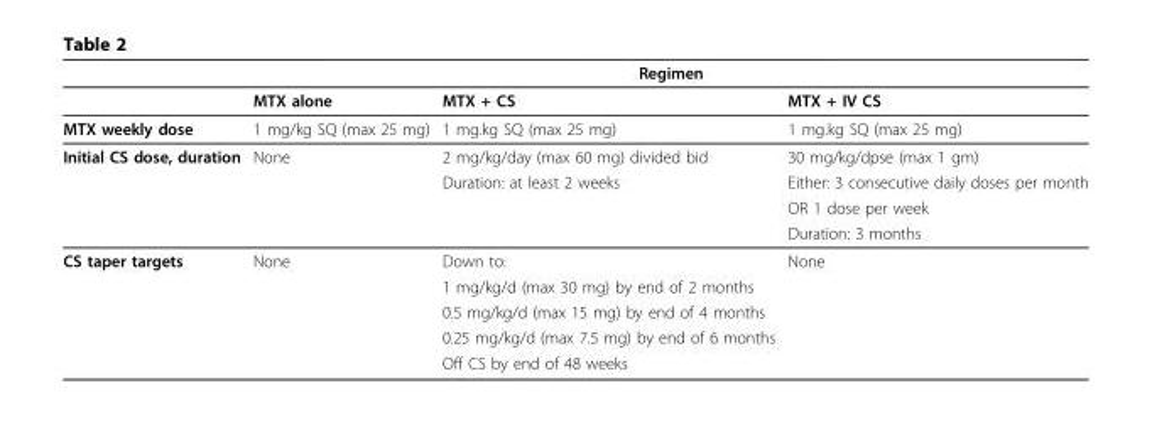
<table><thead><tr><td rowspan="2"></td><td colspan="3">Regimen</td></tr><tr><td>MTX alone</td><td>MTX + CS</td><td>MTX + IV CS</td></tr></thead><tbody><tr><td>MTX weekly dose</td><td>1 mg/kg SQ (max 25 mg)</td><td>1 mg.kg SQ (max 25 mg)</td><td>1 mg.kg SQ (max 25 mg)</td></tr><tr><td rowspan="4">Initial CS dose, duration</td><td>None</td><td>2 mg/kg/day (max 60 mg) divided bid</td><td>30 mg/kg/dpse (max 1 gm)</td></tr><tr><td></td><td>Duration: at least 2 weeks</td><td>Either: 3 consecutive daily doses per month</td></tr><tr><td></td><td></td><td>OR 1 dose per week</td></tr><tr><td></td><td></td><td>Duration: 3 months</td></tr><tr><td rowspan="5">CS taper targets</td><td>None</td><td>Down to:</td><td>None</td></tr><tr><td></td><td>1 mg/kg/d (max 30 mg) by end of 2 months</td><td></td></tr><tr><td></td><td>0.5 mg/kg/d (max 15 mg) by end of 4 months</td><td></td></tr><tr><td></td><td>0.25 mg/kg/d (max 7.5 mg) by end of 6 months</td><td></td></tr><tr><td></td><td>Off CS by end of 48 weeks</td><td></td></tr></tbody></table>